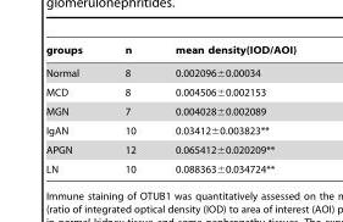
<table><thead><tr><td>groups</td><td>n</td><td>mean density(IOD/AOI)</td></tr></thead><tbody><tr><td>Normal</td><td>8</td><td>0.002096±0.00034</td></tr><tr><td>MCD</td><td>8</td><td>0.004506±0.002153</td></tr><tr><td>MGN</td><td>7</td><td>0.004028±0.002089</td></tr><tr><td>IgAN</td><td>10</td><td>0.03412±0.003823**</td></tr><tr><td>APGN</td><td>12</td><td>0.065412±0.020209**</td></tr><tr><td>LN</td><td>10</td><td>0.088363±0.034724**</td></tr></tbody></table>